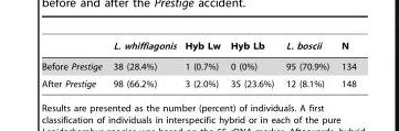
<table><thead><tr><td></td><td>L. whiffiagonis</td><td>Hyb Lw</td><td>Hyb Lb</td><td>L. boscii</td><td>N</td></tr></thead><tbody><tr><td>Before Prestige</td><td>38 (28.4%)</td><td>1 (0.7%)</td><td>0 (0%)</td><td>95 (70.9%)</td><td>134</td></tr><tr><td>After Prestige</td><td>98 (66.2%)</td><td>3 (2.0%)</td><td>35 (23.6%)</td><td>12 (8.1%)</td><td>148</td></tr></tbody></table>